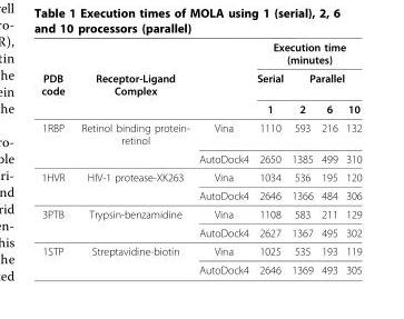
<table><thead><tr><td rowspan="3">PDB code</td><td rowspan="3">Receptor-Ligand Complex</td><td rowspan="3"></td><td colspan="4">Execution time (minutes)</td></tr><tr><td rowspan="2">Serial 1</td><td colspan="3">Parallel</td></tr><tr><td>2</td><td>6</td><td>10</td></tr></thead><tbody><tr><td rowspan="2">1RBP</td><td>Retinol binding protein- retinol</td><td>Vina</td><td>1110</td><td>593</td><td>216</td><td>132</td></tr><tr><td></td><td>AutoDock4</td><td>2650</td><td>1385</td><td>499</td><td>310</td></tr><tr><td rowspan="2">1HVR</td><td>HIV-1 protease-XK263</td><td>Vina</td><td>1034</td><td>536</td><td>195</td><td>120</td></tr><tr><td></td><td>AutoDock4</td><td>2646</td><td>1366</td><td>484</td><td>306</td></tr><tr><td rowspan="2">3PTB</td><td>Trypsin-benzamidine</td><td>Vina</td><td>1108</td><td>583</td><td>211</td><td>129</td></tr><tr><td></td><td>AutoDock4</td><td>2627</td><td>1367</td><td>495</td><td>302</td></tr><tr><td rowspan="2">1STP</td><td>Streptavidine-biotin</td><td>Vina</td><td>1025</td><td>535</td><td>193</td><td>119</td></tr><tr><td></td><td>AutoDock4</td><td>2646</td><td>1369</td><td>493</td><td>305</td></tr></tbody></table>